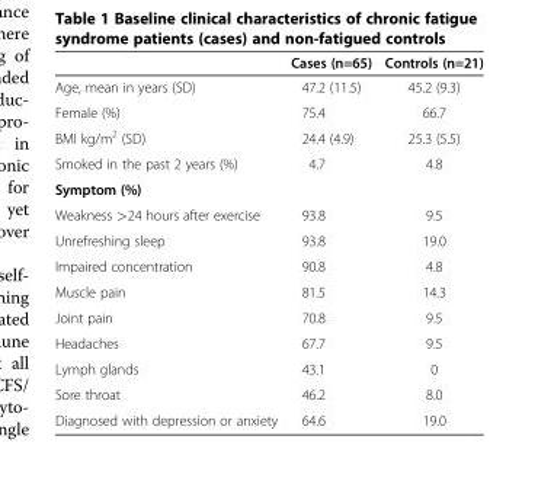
<table><thead><tr><td></td><td>Cases (n=65)</td><td>Controls (n=21)</td></tr></thead><tbody><tr><td>Age, mean in years (SD)</td><td>47.2 (11.5)</td><td>45.2 (9.3)</td></tr><tr><td>Female (%)</td><td>75.4</td><td>66.7</td></tr><tr><td>BMI kg/m<sup>2</sup> (SD)</td><td>24.4 (4.9)</td><td>25.3 (5.5)</td></tr><tr><td>Smoked in the past 2 years (%)</td><td>4.7</td><td>4.8</td></tr><tr><td colspan="3">Symptom (%)</td></tr><tr><td>Weakness &gt;24 hours after exercise</td><td>93.8</td><td>9.5</td></tr><tr><td>Unrefreshing sleep</td><td>93.8</td><td>19.0</td></tr><tr><td>Impaired concentration</td><td>90.8</td><td>4.8</td></tr><tr><td>Muscle pain</td><td>81.5</td><td>14.3</td></tr><tr><td>Joint pain</td><td>70.8</td><td>9.5</td></tr><tr><td>Headaches</td><td>67.7</td><td>9.5</td></tr><tr><td>Lymph glands</td><td>43.1</td><td>0</td></tr><tr><td>Sore throat</td><td>46.2</td><td>8.0</td></tr><tr><td>Diagnosed with depression or anxiety</td><td>64.6</td><td>19.0</td></tr></tbody></table>